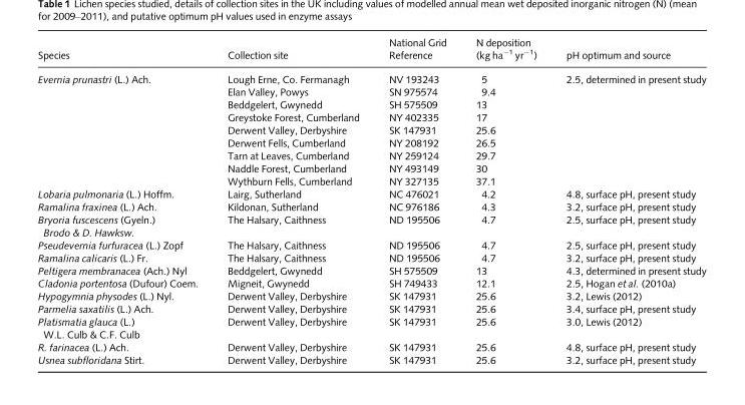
<table><thead><tr><td>Species</td><td>Collection site</td><td>National Grid Reference</td><td>N deposition (kg ha<sup>−1</sup> yr<sup>−1</sup>)</td><td>pH optimum and source</td></tr></thead><tbody><tr><td rowspan="9">Evernia prunastri (L.) Ach.</td><td>Lough Erne, Co. Fermanagh</td><td>NV 193243</td><td>5</td><td rowspan="9">2.5, determined in present study</td></tr><tr><td>Elan Valley, Powys</td><td>SN 975574</td><td>9.4</td></tr><tr><td>Beddgelert, Gwynedd</td><td>SH 575509</td><td>13</td></tr><tr><td>Greystoke Forest, Cumberland</td><td>NY 402335</td><td>17</td></tr><tr><td>Derwent Valley, Derbyshire</td><td>SK 147931</td><td>25.6</td></tr><tr><td>Derwent Fells, Cumberland</td><td>NY 208192</td><td>26.5</td></tr><tr><td>Tarn at Leaves, Cumberland</td><td>NY 259124</td><td>29.7</td></tr><tr><td>Naddle Forest, Cumberland</td><td>NY 493149</td><td>30</td></tr><tr><td>Wythburn Fells, Cumberland</td><td>NY 327135</td><td>37.1</td></tr><tr><td>Lobaria pulmonaria (L.) Hoffm.</td><td>Lairg, Sutherland</td><td>NC 476021</td><td>4.2</td><td>4.8, surface pH, present study</td></tr><tr><td>Ramalina fraxinea (L.) Ach.</td><td>Kildonan, Sutherland</td><td>NC 976186</td><td>4.3</td><td>3.2, surface pH, present study</td></tr><tr><td>Bryoria fuscescens (Gyeln.) Brodo &amp; D. Hawksw.</td><td>The Halsary, Caithness</td><td>ND 195506</td><td>4.7</td><td>2.5, surface pH, present study</td></tr><tr><td>Pseudevernia furfuracea (L.) Zopf</td><td>The Halsary, Caithness</td><td>ND 195506</td><td>4.7</td><td>2.5, surface pH, present study</td></tr><tr><td>Ramalina calicaris (L.) Fr.</td><td>The Halsary, Caithness</td><td>ND 195506</td><td>4.7</td><td>3.2, surface pH, present study</td></tr><tr><td>Peltigera membranacea (Ach.) Nyl</td><td>Beddgelert, Gwynedd</td><td>SH 575509</td><td>13</td><td>4.3, determined in present study</td></tr><tr><td>Cladonia portentosa (Dufour) Coem.</td><td>Migneit, Gwynedd</td><td>SH 749433</td><td>12.1</td><td>2.5, Hogan et al. (2010a)</td></tr><tr><td>Hypogymnia physodes (L.) Nyl.</td><td>Derwent Valley, Derbyshire</td><td>SK 147931</td><td>25.6</td><td>3.2, Lewis (2012)</td></tr><tr><td>Parmelia saxatilis (L.) Ach.</td><td>Derwent Valley, Derbyshire</td><td>SK 147931</td><td>25.6</td><td>3.4, surface pH, present study</td></tr><tr><td>Platismatia glauca (L.) W.L. Culb &amp; C.F. Culb</td><td>Derwent Valley, Derbyshire</td><td>SK 147931</td><td>25.6</td><td>3.0, Lewis (2012)</td></tr><tr><td>R. farinacea (L.) Ach.</td><td>Derwent Valley, Derbyshire</td><td>SK 147931</td><td>25.6</td><td>4.8, surface pH, present study</td></tr><tr><td>Usnea subfloridana Stirt.</td><td>Derwent Valley, Derbyshire</td><td>SK 147931</td><td>25.6</td><td>3.2, surface pH, present study</td></tr></tbody></table>